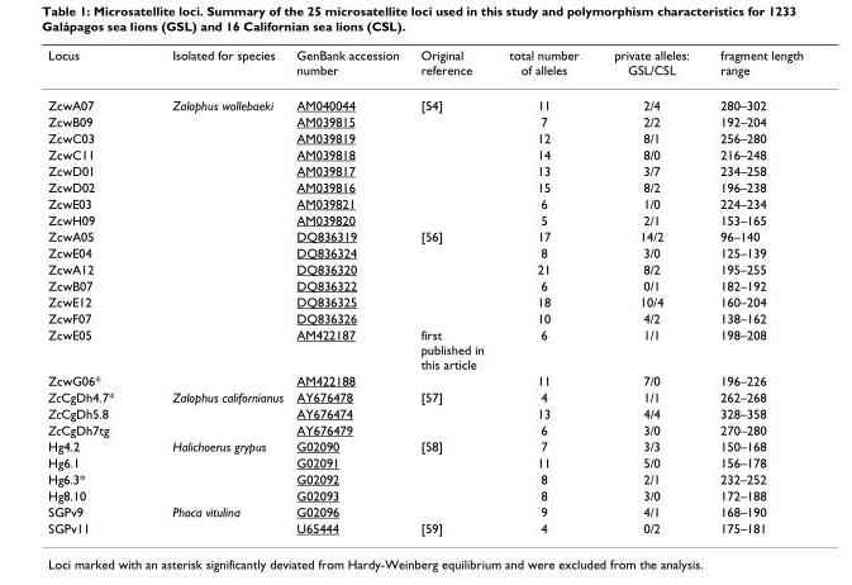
<table><thead><tr><td>Locus</td><td>Isolated for species</td><td>GenBank accession number</td><td>Original reference</td><td>total number of alleles</td><td>private alleles: GSL/CSL</td><td>fragment length range</td></tr></thead><tbody><tr><td>ZcwA07</td><td>Zalophus wollebaeki</td><td>AM040044</td><td>[54]</td><td>11</td><td>2/4</td><td>280–302</td></tr><tr><td>ZcwB09</td><td></td><td>AM039815</td><td></td><td>7</td><td>2/2</td><td>192–204</td></tr><tr><td>ZcwC03</td><td></td><td>AM039819</td><td></td><td>12</td><td>8/1</td><td>256–280</td></tr><tr><td>ZcwC11</td><td></td><td>AM039818</td><td></td><td>14</td><td>8/0</td><td>216–248</td></tr><tr><td>ZcwD01</td><td></td><td>AM039817</td><td></td><td>13</td><td>3/7</td><td>234–258</td></tr><tr><td>ZcwD02</td><td></td><td>AM039816</td><td></td><td>15</td><td>8/2</td><td>196–238</td></tr><tr><td>ZcwE03</td><td></td><td>AM039821</td><td></td><td>6</td><td>1/0</td><td>224–234</td></tr><tr><td>ZcwH09</td><td></td><td>AM039820</td><td></td><td>5</td><td>2/1</td><td>153–165</td></tr><tr><td>ZcwA05</td><td></td><td>DQ836319</td><td>[56]</td><td>17</td><td>14/2</td><td>96–140</td></tr><tr><td>ZcwE04</td><td></td><td>DQ836324</td><td></td><td>8</td><td>3/0</td><td>125–139</td></tr><tr><td>ZcwA12</td><td></td><td>DQ836320</td><td></td><td>21</td><td>8/2</td><td>195–255</td></tr><tr><td>ZcwB07</td><td></td><td>DQ836322</td><td></td><td>6</td><td>0/1</td><td>182–192</td></tr><tr><td>ZcwE12</td><td></td><td>DQ836325</td><td></td><td>18</td><td>10/4</td><td>160–204</td></tr><tr><td>ZcwF07</td><td></td><td>DQ836326</td><td></td><td>10</td><td>4/2</td><td>138–162</td></tr><tr><td>ZcwE05</td><td></td><td>AM422187</td><td>first published in this article</td><td>6</td><td>1/1</td><td>198–208</td></tr><tr><td>ZcwG06*</td><td></td><td>AM422188</td><td></td><td>11</td><td>7/0</td><td>196–226</td></tr><tr><td>ZcCgDh4.7*</td><td>Zalophus californianus</td><td>AY676478</td><td>[57]</td><td>4</td><td>1/1</td><td>262–268</td></tr><tr><td>ZcCgDh5.8</td><td></td><td>AY676474</td><td></td><td>13</td><td>4/4</td><td>328–358</td></tr><tr><td>ZcCgDh7tg</td><td></td><td>AY676479</td><td></td><td>6</td><td>3/0</td><td>270–280</td></tr><tr><td>Hg4.2</td><td>Halichoerus grypus</td><td>G02090</td><td>[58]</td><td>7</td><td>3/3</td><td>150–168</td></tr><tr><td>Hg6.1</td><td></td><td>G02091</td><td></td><td>11</td><td>5/0</td><td>156–178</td></tr><tr><td>Hg6.3*</td><td></td><td>G02092</td><td></td><td>8</td><td>2/1</td><td>232–252</td></tr><tr><td>Hg8.10</td><td></td><td>G02093</td><td></td><td>8</td><td>3/0</td><td>172–188</td></tr><tr><td>SGPv9</td><td>Phoca vitulina</td><td>G02096</td><td></td><td>9</td><td>4/1</td><td>168–190</td></tr><tr><td>SGPv11</td><td></td><td>U65444</td><td>[59]</td><td>4</td><td>0/2</td><td>175–181</td></tr></tbody></table>